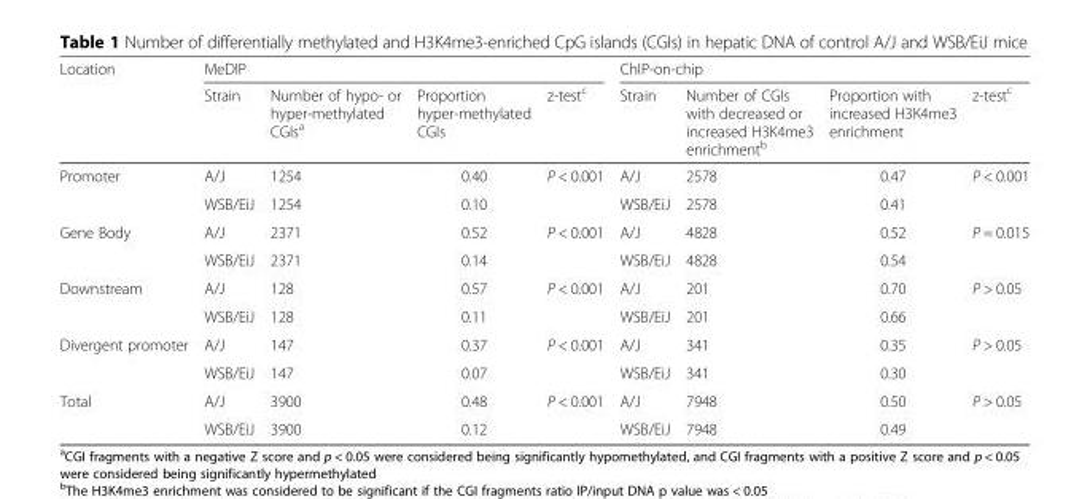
<table><thead><tr><td rowspan="2">Location</td><td colspan="4">MeDIP</td><td colspan="4">ChIP-on-chip</td></tr><tr><td>Strain</td><td>Number of hypo- or hyper-methylated CGIs<sup>a</sup></td><td>Proportion hyper-methylated CGIs</td><td>z-test<sup>c</sup></td><td>Strain</td><td>Number of CGIs with decreased or increased H3K4me3 enrichment<sup>b</sup></td><td>Proportion with increased H3K4me3 enrichment</td><td>z-test<sup>c</sup></td></tr></thead><tbody><tr><td rowspan="2">Promoter</td><td>A/J</td><td>1254</td><td>0.40</td><td rowspan="2">P &lt; 0.001</td><td>A/J</td><td>2578</td><td>0.47</td><td rowspan="2">P &lt; 0.001</td></tr><tr><td>WSB/EiJ</td><td>1254</td><td>0.10</td><td>WSB/EiJ</td><td>2578</td><td>0.41</td></tr><tr><td rowspan="2">Gene Body</td><td>A/J</td><td>2371</td><td>0.52</td><td rowspan="2">P &lt; 0.001</td><td>A/J</td><td>4828</td><td>0.52</td><td rowspan="2">P = 0.015</td></tr><tr><td>WSB/EiJ</td><td>2371</td><td>0.14</td><td>WSB/EiJ</td><td>4828</td><td>0.54</td></tr><tr><td rowspan="2">Downstream</td><td>A/J</td><td>128</td><td>0.57</td><td rowspan="2">P &lt; 0.001</td><td>A/J</td><td>201</td><td>0.70</td><td rowspan="2">P &gt; 0.05</td></tr><tr><td>WSB/EiJ</td><td>128</td><td>0.11</td><td>WSB/EiJ</td><td>201</td><td>0.66</td></tr><tr><td rowspan="2">Divergent promoter</td><td>A/J</td><td>147</td><td>0.37</td><td rowspan="2">P &lt; 0.001</td><td>A/J</td><td>341</td><td>0.35</td><td rowspan="2">P &gt; 0.05</td></tr><tr><td>WSB/EiJ</td><td>147</td><td>0.07</td><td>WSB/EiJ</td><td>341</td><td>0.30</td></tr><tr><td rowspan="2">Total</td><td>A/J</td><td>3900</td><td>0.48</td><td rowspan="2">P &lt; 0.001</td><td>A/J</td><td>7948</td><td>0.50</td><td rowspan="2">P &gt; 0.05</td></tr><tr><td>WSB/EiJ</td><td>3900</td><td>0.12</td><td>WSB/EiJ</td><td>7948</td><td>0.49</td></tr></tbody></table>